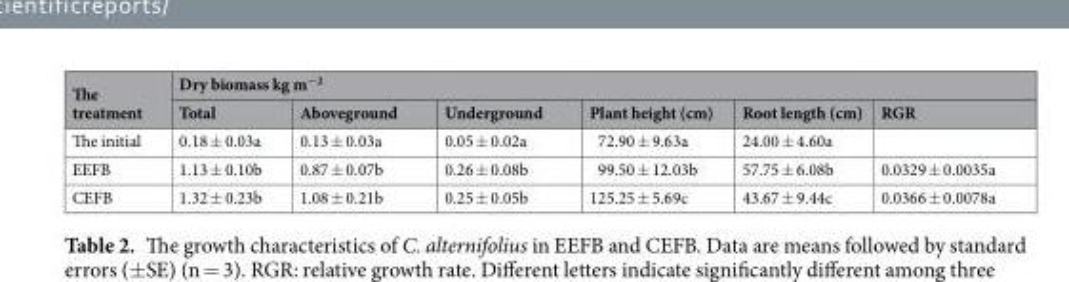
<table><thead><tr><td rowspan="2">The treatment</td><td colspan="6">Dry biomass kg m<sup>−2</sup></td></tr><tr><td>Total</td><td>Aboveground</td><td>Underground</td><td>Plant height (cm)</td><td>Root length (cm)</td><td>RGR</td></tr></thead><tbody><tr><td>The initial</td><td>0.18 ± 0.03a</td><td>0.13 ± 0.03a</td><td>0.05 ± 0.02a</td><td>72.90 ± 9.63a</td><td>24.00 ± 4.60a</td><td></td></tr><tr><td>EEFB</td><td>1.13 ± 0.10b</td><td>0.87 ± 0.07b</td><td>0.26 ± 0.08b</td><td>99.50 ± 12.03b</td><td>57.75 ± 6.08b</td><td>0.0329 ± 0.0035a</td></tr><tr><td>CEFB</td><td>1.32 ± 0.23b</td><td>1.08 ± 0.21b</td><td>0.25 ± 0.05b</td><td>125.25 ± 5.69c</td><td>43.67 ± 9.44c</td><td>0.0366 ± 0.0078a</td></tr></tbody></table>